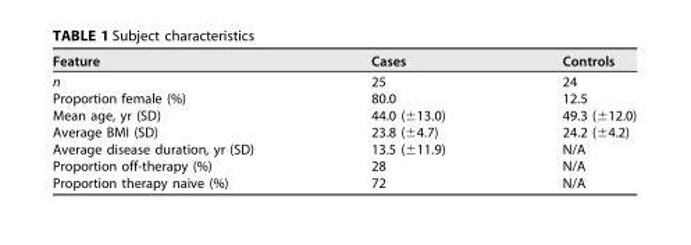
<table><thead><tr><td>Feature</td><td>Cases</td><td>Controls</td></tr></thead><tbody><tr><td>n</td><td>25</td><td>24</td></tr><tr><td>Proportion female (%)</td><td>80.0</td><td>12.5</td></tr><tr><td>Mean age, yr (SD)</td><td>44.0 (±13.0)</td><td>49.3 (±12.0)</td></tr><tr><td>Average BMI (SD)</td><td>23.8 (±4.7)</td><td>24.2 (±4.2)</td></tr><tr><td>Average disease duration, yr (SD)</td><td>13.5 (±11.9)</td><td>N/A</td></tr><tr><td>Proportion off-therapy (%)</td><td>28</td><td>N/A</td></tr><tr><td>Proportion therapy naive (%)</td><td>72</td><td>N/A</td></tr></tbody></table>